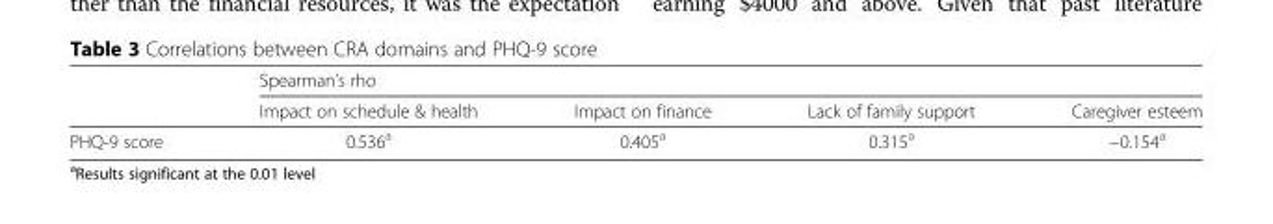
<table><thead><tr><td rowspan="2"></td><td colspan="4">Spearman’s rho</td></tr><tr><td>Impact on schedule &amp; health</td><td>Impact on finance</td><td>Lack of family support</td><td>Caregiver esteem</td></tr></thead><tbody><tr><td>PHQ-9 score</td><td>0.536<sup>a</sup></td><td>0.405<sup>a</sup></td><td>0.315<sup>a</sup></td><td>−0.154<sup>a</sup></td></tr></tbody></table>